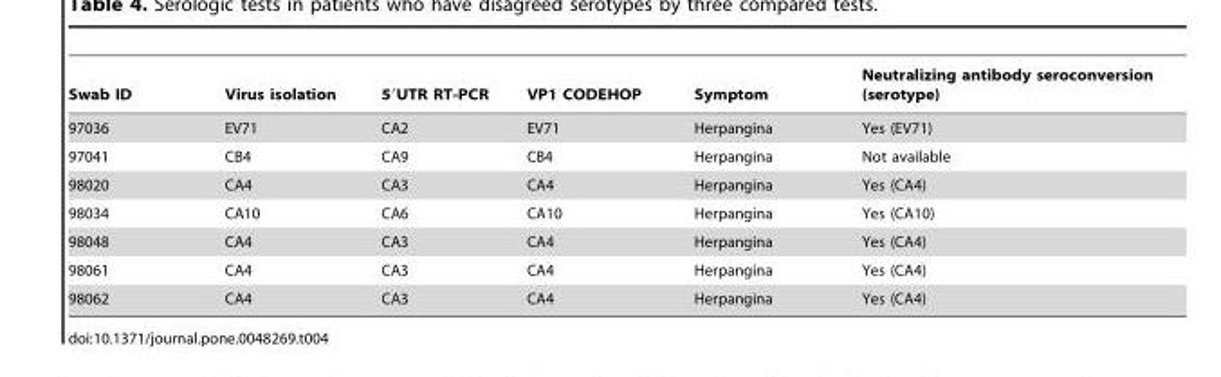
<table><thead><tr><td>Swab ID</td><td>Virus isolation</td><td>5′UTR RT-PCR</td><td>VP1 CODEHOP</td><td>Symptom</td><td>Neutralizing antibody seroconversion (serotype)</td></tr></thead><tbody><tr><td>97036</td><td>EV71</td><td>CA2</td><td>EV71</td><td>Herpangina</td><td>Yes (EV71)</td></tr><tr><td>97041</td><td>CB4</td><td>CA9</td><td>CB4</td><td>Herpangina</td><td>Not available</td></tr><tr><td>98020</td><td>CA4</td><td>CA3</td><td>CA4</td><td>Herpangina</td><td>Yes (CA4)</td></tr><tr><td>98034</td><td>CA10</td><td>CA6</td><td>CA10</td><td>Herpangina</td><td>Yes (CA10)</td></tr><tr><td>98048</td><td>CA4</td><td>CA3</td><td>CA4</td><td>Herpangina</td><td>Yes (CA4)</td></tr><tr><td>98061</td><td>CA4</td><td>CA3</td><td>CA4</td><td>Herpangina</td><td>Yes (CA4)</td></tr><tr><td>98062</td><td>CA4</td><td>CA3</td><td>CA4</td><td>Herpangina</td><td>Yes (CA4)</td></tr></tbody></table>